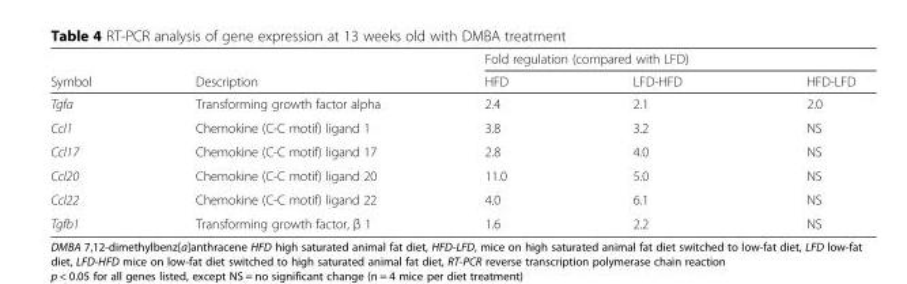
<table><thead><tr><td rowspan="2">Symbol</td><td rowspan="2">Description</td><td colspan="3">Fold regulation (compared with LFD)</td></tr><tr><td>HFD</td><td>LFD-HFD</td><td>HFD-LFD</td></tr></thead><tbody><tr><td>Tgfa</td><td>Transforming growth factor alpha</td><td>2.4</td><td>2.1</td><td>2.0</td></tr><tr><td>Ccl1</td><td>Chemokine (C-C motif) ligand 1</td><td>3.8</td><td>3.2</td><td>NS</td></tr><tr><td>Ccl17</td><td>Chemokine (C-C motif) ligand 17</td><td>2.8</td><td>4.0</td><td>NS</td></tr><tr><td>Ccl20</td><td>Chemokine (C-C motif) ligand 20</td><td>11.0</td><td>5.0</td><td>NS</td></tr><tr><td>Ccl22</td><td>Chemokine (C-C motif) ligand 22</td><td>4.0</td><td>6.1</td><td>NS</td></tr><tr><td>Tgfb1</td><td>Transforming growth factor, β 1</td><td>1.6</td><td>2.2</td><td>NS</td></tr></tbody></table>